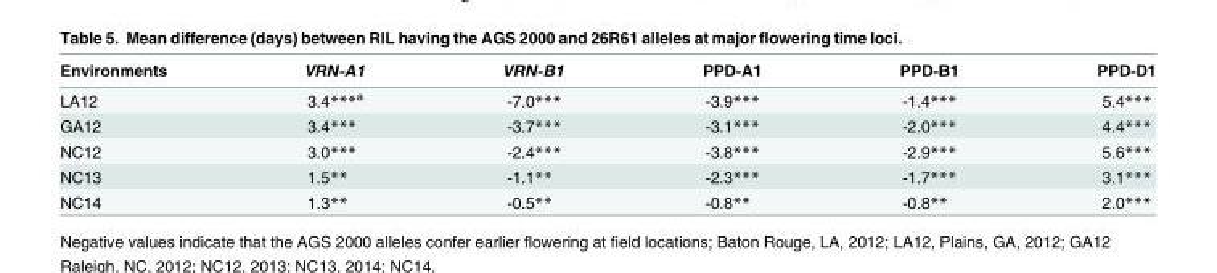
<table><thead><tr><td>Environments</td><td>VRN-A1</td><td>VRN-B1</td><td>PPD-A1</td><td>PPD-B1</td><td>PPD-D1</td></tr></thead><tbody><tr><td>LA12</td><td>3.4***<sup>a</sup></td><td>-7.0***</td><td>-3.9***</td><td>-1.4***</td><td>5.4***</td></tr><tr><td>GA12</td><td>3.4***</td><td>-3.7***</td><td>-3.1***</td><td>-2.0***</td><td>4.4***</td></tr><tr><td>NC12</td><td>3.0***</td><td>-2.4***</td><td>-3.8***</td><td>-2.9***</td><td>5.6***</td></tr><tr><td>NC13</td><td>1.5**</td><td>-1.1**</td><td>-2.3***</td><td>-1.7***</td><td>3.1***</td></tr><tr><td>NC14</td><td>1.3**</td><td>-0.5**</td><td>-0.8**</td><td>-0.8**</td><td>2.0***</td></tr></tbody></table>